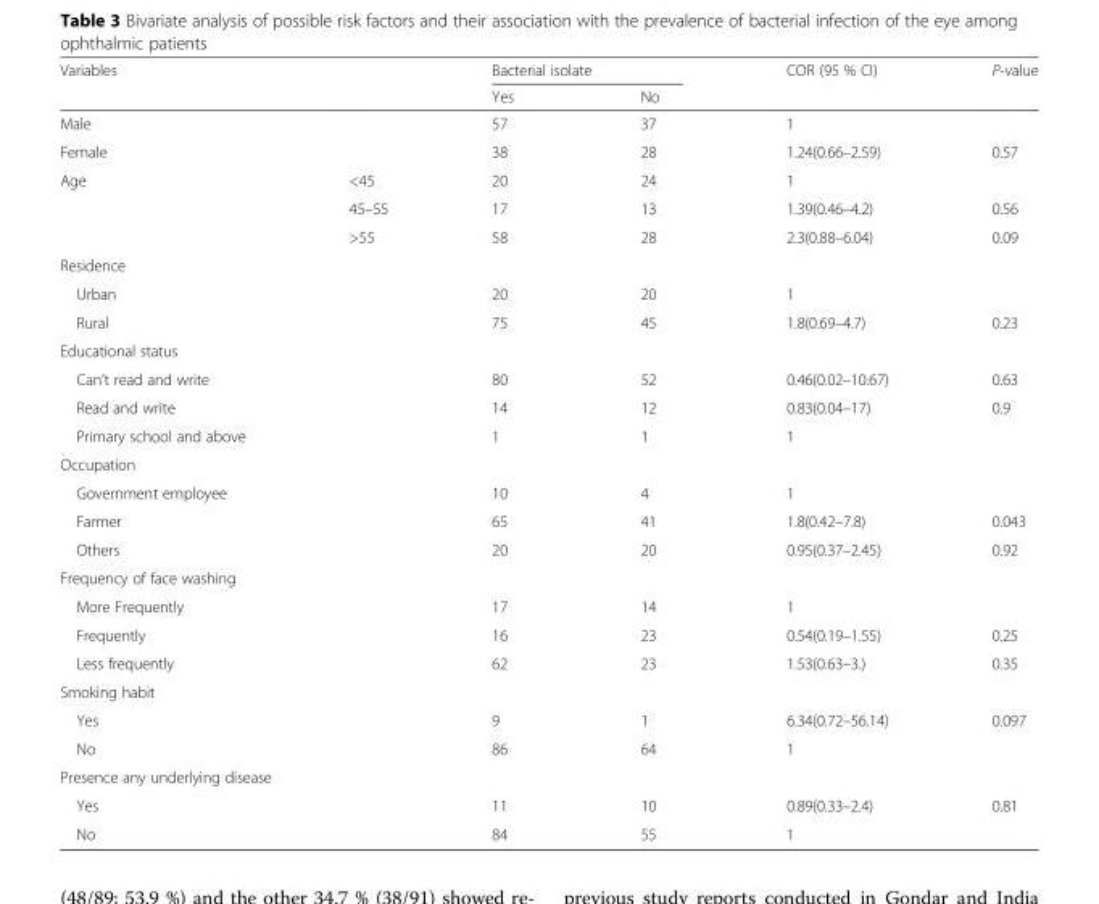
<table><thead><tr><td rowspan="2">Variables</td><td rowspan="2"></td><td colspan="2">Bacterial isolate</td><td rowspan="2">COR (95 % CI)</td><td rowspan="2">P-value</td></tr><tr><td>Yes</td><td>No</td></tr></thead><tbody><tr><td>Male</td><td></td><td>57</td><td>37</td><td>1</td><td></td></tr><tr><td>Female</td><td></td><td>38</td><td>28</td><td>1.24(0.66–2.59)</td><td>0.57</td></tr><tr><td rowspan="3">Age</td><td>&lt;45</td><td>20</td><td>24</td><td>1</td><td></td></tr><tr><td>45–55</td><td>17</td><td>13</td><td>1.39(0.46–4.2)</td><td>0.56</td></tr><tr><td>&gt;55</td><td>58</td><td>28</td><td>2.3(0.88–6.04)</td><td>0.09</td></tr><tr><td colspan="6">Residence</td></tr><tr><td>Urban</td><td></td><td>20</td><td>20</td><td>1</td><td></td></tr><tr><td>Rural</td><td></td><td>75</td><td>45</td><td>1.8(0.69–4.7)</td><td>0.23</td></tr><tr><td colspan="6">Educational status</td></tr><tr><td>Can’t read and write</td><td></td><td>80</td><td>52</td><td>0.46(0.02–10.67)</td><td>0.63</td></tr><tr><td>Read and write</td><td></td><td>14</td><td>12</td><td>0.83(0.04–17)</td><td>0.9</td></tr><tr><td>Primary school and above</td><td></td><td>1</td><td>1</td><td>1</td><td></td></tr><tr><td colspan="6">Occupation</td></tr><tr><td>Government employee</td><td></td><td>10</td><td>4</td><td>1</td><td></td></tr><tr><td>Farmer</td><td></td><td>65</td><td>41</td><td>1.8(0.42–7.8)</td><td>0.043</td></tr><tr><td>Others</td><td></td><td>20</td><td>20</td><td>0.95(0.37–2.45)</td><td>0.92</td></tr><tr><td colspan="6">Frequency of face washing</td></tr><tr><td>More Frequently</td><td></td><td>17</td><td>14</td><td>1</td><td></td></tr><tr><td>Frequently</td><td></td><td>16</td><td>23</td><td>0.54(0.19–1.55)</td><td>0.25</td></tr><tr><td>Less frequently</td><td></td><td>62</td><td>23</td><td>1.53(0.63–3.)</td><td>0.35</td></tr><tr><td colspan="6">Smoking habit</td></tr><tr><td>Yes</td><td></td><td>9</td><td>1</td><td>6.34(0.72–56.14)</td><td>0.097</td></tr><tr><td>No</td><td></td><td>86</td><td>64</td><td>1</td><td></td></tr><tr><td colspan="6">Presence any underlying disease</td></tr><tr><td>Yes</td><td></td><td>11</td><td>10</td><td>0.89(0.33–2.4)</td><td>0.81</td></tr><tr><td>No</td><td></td><td>84</td><td>55</td><td>1</td><td></td></tr></tbody></table>